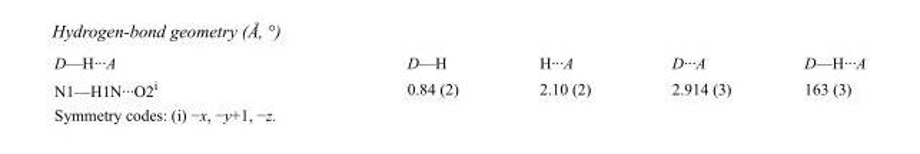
<table><tbody><tr><td>D—H···A</td><td>D—H</td><td>H···A</td><td>D···A</td><td>D—H···A</td></tr><tr><td>N1—H1N···O2<sup>i</sup></td><td>0.84 (2)</td><td>2.10 (2)</td><td>2.914 (3)</td><td>163 (3)</td></tr></tbody></table>